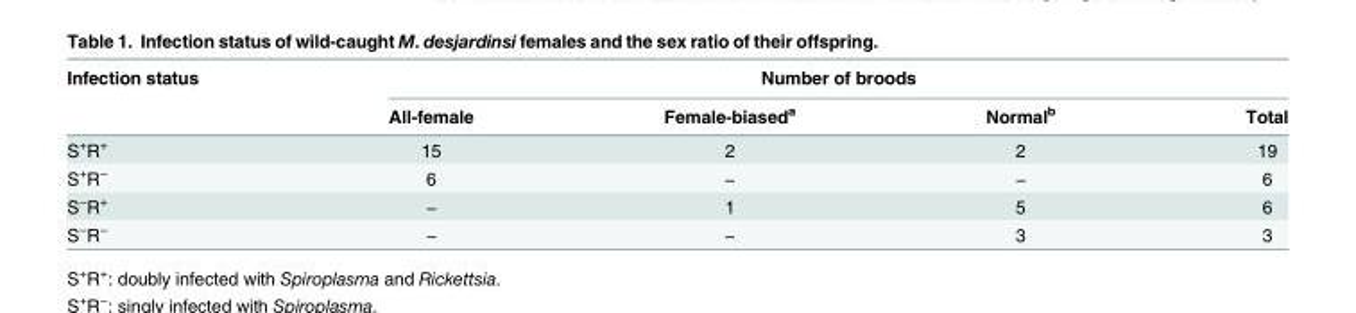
<table><thead><tr><td rowspan="2">Infection status</td><td colspan="4">Number of broods</td></tr><tr><td>All-female</td><td>Female-biased<sup>a</sup></td><td>Normal<sup>b</sup></td><td>Total</td></tr></thead><tbody><tr><td>S<sup>+</sup>R<sup>+</sup></td><td>15</td><td>2</td><td>2</td><td>19</td></tr><tr><td>S<sup>+</sup>R<sup>−</sup></td><td>6</td><td>−</td><td>−</td><td>6</td></tr><tr><td>S<sup>−</sup>R<sup>+</sup></td><td>−</td><td>1</td><td>5</td><td>6</td></tr><tr><td>S<sup>−</sup>R<sup>−</sup></td><td>−</td><td>−</td><td>3</td><td>3</td></tr></tbody></table>